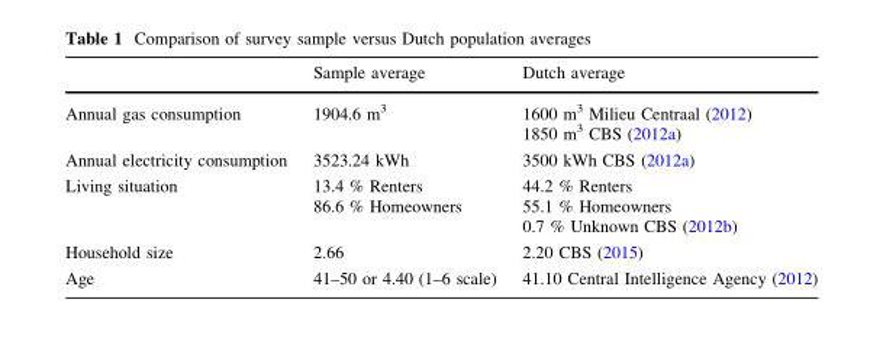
<table><thead><tr><td></td><td>Sample average</td><td>Dutch average</td></tr></thead><tbody><tr><td>Annual gas consumption</td><td>1904.6 m<sup>3</sup></td><td>1600 m<sup>3</sup> Milieu Centraal (2012) 1850 m<sup>3</sup> CBS (2012a)</td></tr><tr><td>Annual electricity consumption</td><td>3523.24 kWh</td><td>3500 kWh CBS (2012a)</td></tr><tr><td>Living situation</td><td>13.4 % Renters 86.6 % Homeowners</td><td>44.2 % Renters 55.1 % Homeowners 0.7 % Unknown CBS (2012b)</td></tr><tr><td>Household size</td><td>2.66</td><td>2.20 CBS (2015)</td></tr><tr><td>Age</td><td>41–50 or 4.40 (1–6 scale)</td><td>41.10 Central Intelligence Agency (2012)</td></tr></tbody></table>